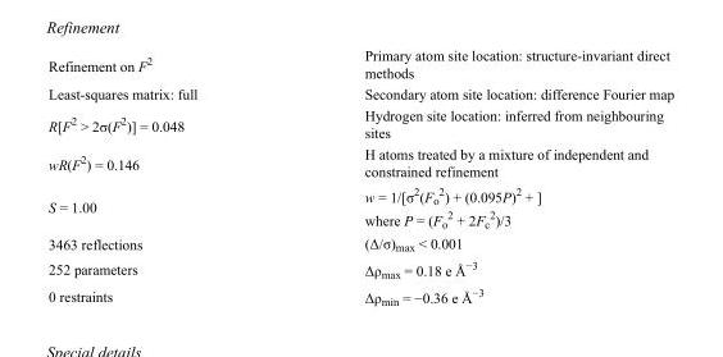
<table><tbody><tr><td>Refinement on F<sup>2</sup></td><td>Primary atom site location: structure-invariant direct methods</td></tr><tr><td>Least-squares matrix: full</td><td>Secondary atom site location: difference Fourier map</td></tr><tr><td>R[F<sup>2</sup> &gt; 2σ(F<sup>2</sup>)] = 0.048</td><td>Hydrogen site location: inferred from neighbouring sites</td></tr><tr><td>wR(F<sup>2</sup>) = 0.146</td><td>H atoms treated by a mixture of independent and constrained refinement</td></tr><tr><td>S = 1.00</td><td>w = 1/[σ<sup>2</sup>(F<sub>o</sub> <sup>2</sup>) + (0.095P)<sup>2</sup> + ] where P = (F<sub>o</sub> <sup>2</sup> + 2F<sub>c</sub> <sup>2</sup>)/3</td></tr><tr><td>3463 reflections</td><td>(Δ/σ)<sub>max</sub> &lt; 0.001</td></tr><tr><td>252 parameters</td><td>Δρ<sub>max</sub> = 0.18 e Å<sup>−3</sup></td></tr><tr><td>0 restraints</td><td>Δρmin = −0.36 e Å−3</td></tr></tbody></table>